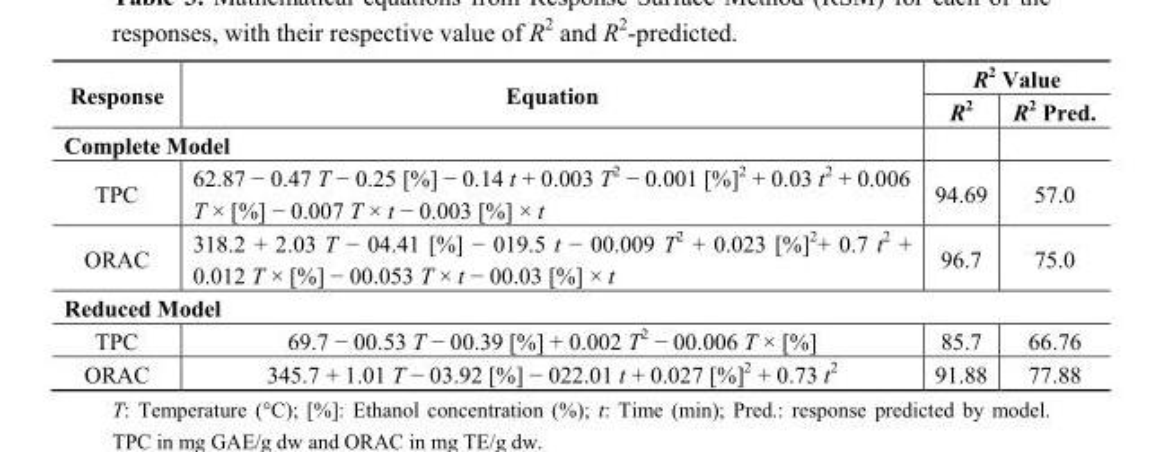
<table><thead><tr><td rowspan="2">Response</td><td rowspan="2">Equation</td><td colspan="2">R<sup>2</sup> Value</td></tr><tr><td>R<sup>2</sup></td><td>R<sup>2</sup> Pred.</td></tr></thead><tbody><tr><td colspan="4">Complete Model</td></tr><tr><td>TPC</td><td>62.87 − 0.47 T − 0.25 [%] − 0.14 t + 0.003 T<sup>2</sup> − 0.001 [%]<sup>2</sup> + 0.03 t<sup>2</sup> + 0.006 T × [%] − 0.007 T × t − 0.003 [%] × t</td><td>94.69</td><td>57.0</td></tr><tr><td>ORAC</td><td>318.2 + 2.03 T − 04.41 [%] − 019.5 t − 00.009 T<sup>2</sup> + 0.023 [%]<sup>2</sup>+ 0.7 t<sup>2</sup> + 0.012 T × [%] − 00.053 T × t − 00.03 [%] × t</td><td>96.7</td><td>75.0</td></tr><tr><td colspan="4">Reduced Model</td></tr><tr><td>TPC</td><td>69.7 − 00.53 T − 00.39 [%] + 0.002 T<sup>2</sup> − 00.006 T × [%]</td><td>85.7</td><td>66.76</td></tr><tr><td>ORAC</td><td>345.7 + 1.01 T − 03.92 [%] − 022.01 t + 0.027 [%]<sup>2</sup> + 0.73 t<sup>2</sup></td><td>91.88</td><td>77.88</td></tr></tbody></table>